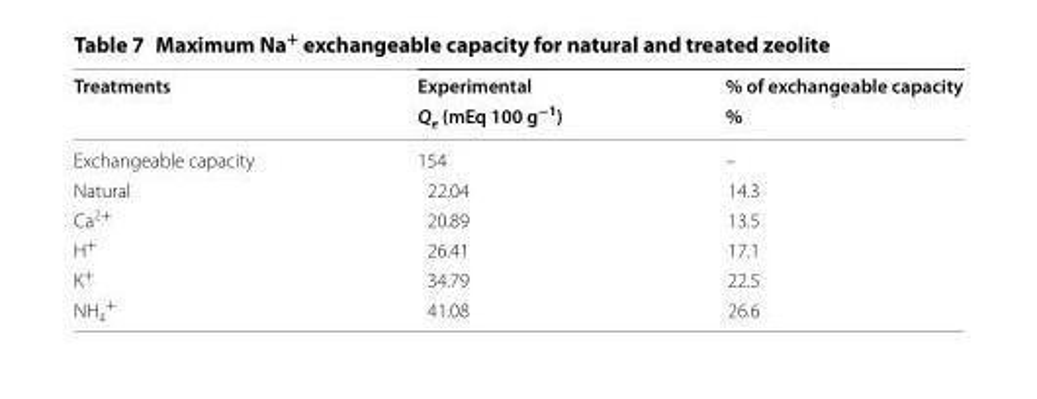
<table><thead><tr><td rowspan="2">Treatments</td><td rowspan="2">Experimental Q<sub>e</sub> (mEq 100 g<sup>−1</sup>)</td><td rowspan="2">% of exchangeable capacity %</td></tr><tr></tr></thead><tbody><tr><td>Exchangeable capacity</td><td>154</td><td>–</td></tr><tr><td>Natural</td><td>22.04</td><td>14.3</td></tr><tr><td>Ca<sup>2+</sup></td><td>20.89</td><td>13.5</td></tr><tr><td>H<sup>+</sup></td><td>26.41</td><td>17.1</td></tr><tr><td>K<sup>+</sup></td><td>34.79</td><td>22.5</td></tr><tr><td>NH<sub>4</sub> <sup>+</sup></td><td>41.08</td><td>26.6</td></tr></tbody></table>